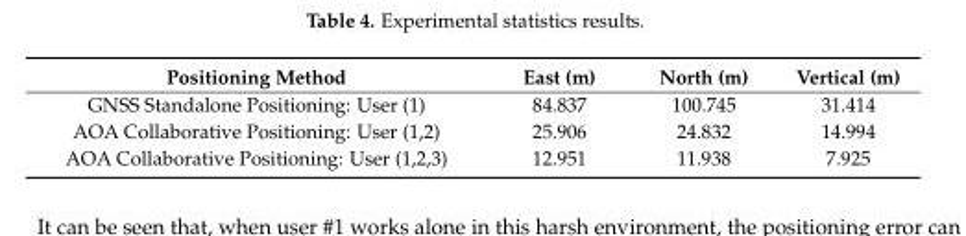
<table><thead><tr><td>Positioning Method</td><td>East (m)</td><td>North (m)</td><td>Vertical (m)</td></tr></thead><tbody><tr><td>GNSS Standalone Positioning: User (1)</td><td>84.837</td><td>100.745</td><td>31.414</td></tr><tr><td>AOA Collaborative Positioning: User (1,2)</td><td>25.906</td><td>24.832</td><td>14.994</td></tr><tr><td>AOA Collaborative Positioning: User (1,2,3)</td><td>12.951</td><td>11.938</td><td>7.925</td></tr></tbody></table>